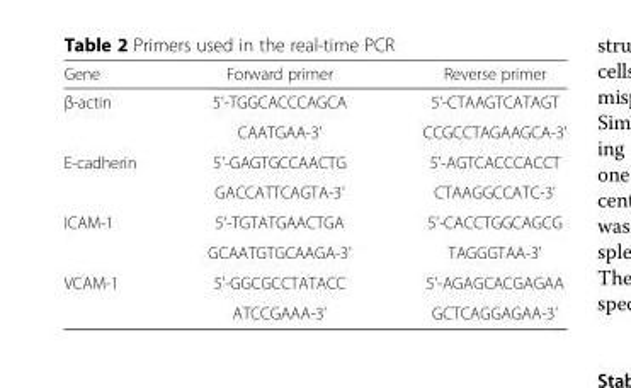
<table><thead><tr><td>Gene</td><td>Forward primer</td><td>Reverse primer</td></tr></thead><tbody><tr><td rowspan="2">β-actin</td><td>5&#x27;-TGGCACCCAGCA</td><td>5&#x27;-CTAAGTCATAGT</td></tr><tr><td>CAATGAA-3&#x27;</td><td>CCGCCTAGAAGCA-3&#x27;</td></tr><tr><td rowspan="2">E-cadherin</td><td>5&#x27;-GAGTGCCAACTG</td><td>5&#x27;-AGTCACCCACCT</td></tr><tr><td>GACCATTCAGTA-3&#x27;</td><td>CTAAGGCCATC-3&#x27;</td></tr><tr><td rowspan="2">ICAM-1</td><td>5&#x27;-TGTATGAACTGA</td><td>5&#x27;-CACCTGGCAGCG</td></tr><tr><td>GCAATGTGCAAGA-3&#x27;</td><td>TAGGGTAA-3&#x27;</td></tr><tr><td rowspan="2">VCAM-1</td><td>5&#x27;-GGCGCCTATACC</td><td>5&#x27;-AGAGCACGAGAA</td></tr><tr><td>ATCCGAAA-3&#x27;</td><td>GCTCAGGAGAA-3&#x27;</td></tr></tbody></table>